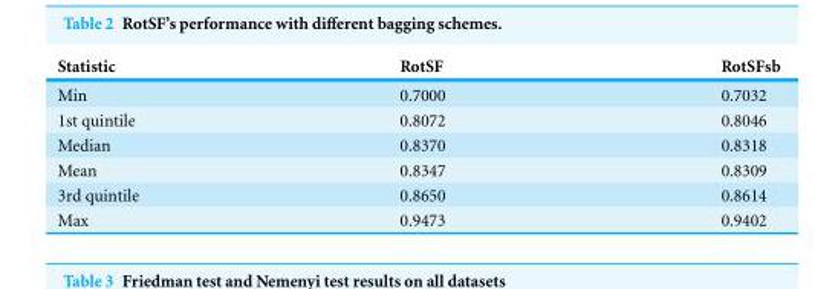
<table><thead><tr><td>Statistic</td><td>RotSF</td><td>RotSFsb</td></tr></thead><tbody><tr><td>Min</td><td>0.7000</td><td>0.7032</td></tr><tr><td>1st quintile</td><td>0.8072</td><td>0.8046</td></tr><tr><td>Median</td><td>0.8370</td><td>0.8318</td></tr><tr><td>Mean</td><td>0.8347</td><td>0.8309</td></tr><tr><td>3rd quintile</td><td>0.8650</td><td>0.8614</td></tr><tr><td>Max</td><td>0.9473</td><td>0.9402</td></tr></tbody></table>